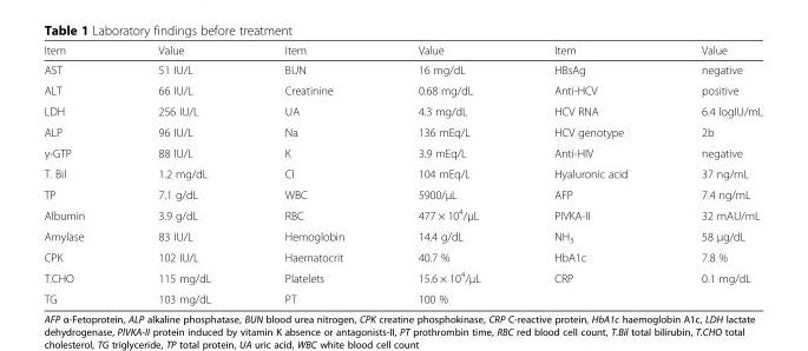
<table><thead><tr><td>Item</td><td>Value</td><td>Item</td><td>Value</td><td>Item</td><td>Value</td></tr></thead><tbody><tr><td>AST</td><td>51 IU/L</td><td>BUN</td><td>16 mg/dL</td><td>HBsAg</td><td>negative</td></tr><tr><td>ALT</td><td>66 IU/L</td><td>Creatinine</td><td>0.68 mg/dL</td><td>Anti-HCV</td><td>positive</td></tr><tr><td>LDH</td><td>256 IU/L</td><td>UA</td><td>4.3 mg/dL</td><td>HCV RNA</td><td>6.4 logIU/mL</td></tr><tr><td>ALP</td><td>96 IU/L</td><td>Na</td><td>136 mEq/L</td><td>HCV genotype</td><td>2b</td></tr><tr><td>γ-GTP</td><td>88 IU/L</td><td>K</td><td>3.9 mEq/L</td><td>Anti-HIV</td><td>negative</td></tr><tr><td>T. Bil</td><td>1.2 mg/dL</td><td>Cl</td><td>104 mEq/L</td><td>Hyaluronic acid</td><td>37 ng/mL</td></tr><tr><td>TP</td><td>7.1 g/dL</td><td>WBC</td><td>5900/μL</td><td>AFP</td><td>7.4 ng/mL</td></tr><tr><td>Albumin</td><td>3.9 g/dL</td><td>RBC</td><td>477 × 10<sup>4</sup>/μL</td><td>PIVKA-II</td><td>32 mAU/mL</td></tr><tr><td>Amylase</td><td>83 IU/L</td><td>Hemoglobin</td><td>14.4 g/dL</td><td>NH<sub>3</sub></td><td>58 μg/dL</td></tr><tr><td>CPK</td><td>102 IU/L</td><td>Haematocrit</td><td>40.7 %</td><td>HbA1c</td><td>7.8 %</td></tr><tr><td>T.CHO</td><td>115 mg/dL</td><td>Platelets</td><td>15.6 × 10<sup>4</sup>/μL</td><td>CRP</td><td>0.1 mg/dL</td></tr><tr><td>TG</td><td>103 mg/dL</td><td>PT</td><td>100 %</td><td></td><td></td></tr></tbody></table>